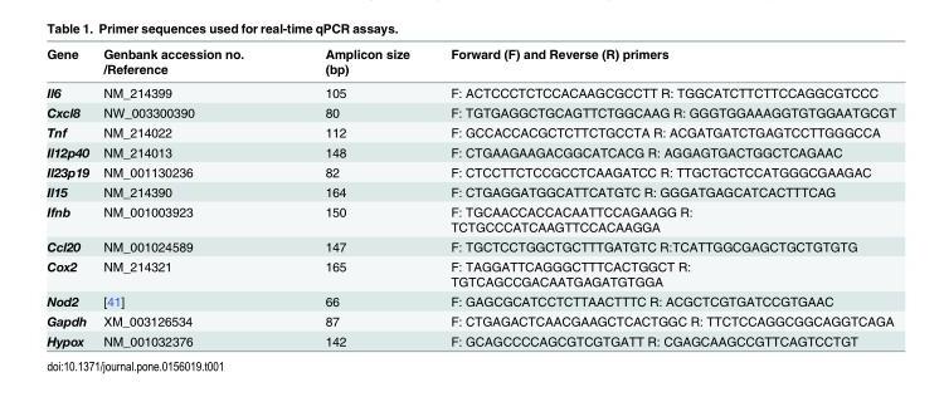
<table><thead><tr><td>Gene</td><td>Genbank accession no. /Reference</td><td>Amplicon size (bp)</td><td>Forward (F) and Reverse (R) primers</td></tr></thead><tbody><tr><td>Il6</td><td>NM_214399</td><td>105</td><td>F: ACTCCCTCTCCACAAGCGCCTT R: TGGCATCTTCTTCCAGGCGTCCC</td></tr><tr><td>Cxcl8</td><td>NW_003300390</td><td>80</td><td>F: TGTGAGGCTGCAGTTCTGGCAAG R: GGGTGGAAAGGTGTGGAATGCGT</td></tr><tr><td>Tnf</td><td>NM_214022</td><td>112</td><td>F: GCCACCACGCTCTTCTGCCTA R: ACGATGATCTGAGTCCTTGGGCCA</td></tr><tr><td>Il12p40</td><td>NM_214013</td><td>148</td><td>F: CTGAAGAAGACGGCATCACG R: AGGAGTGACTGGCTCAGAAC</td></tr><tr><td>Il23p19</td><td>NM_001130236</td><td>82</td><td>F: CTCCTTCTCCGCCTCAAGATCC R: TTGCTGCTCCATGGGCGAAGAC</td></tr><tr><td>Il15</td><td>NM_214390</td><td>164</td><td>F: CTGAGGATGGCATTCATGTC R: GGGATGAGCATCACTTTCAG</td></tr><tr><td>Ifnb</td><td>NM_001003923</td><td>150</td><td>F: TGCAACCACCACAATTCCAGAAGG R: TCTGCCCATCAAGTTCCACAAGGA</td></tr><tr><td>Ccl20</td><td>NM_001024589</td><td>147</td><td>F: TGCTCCTGGCTGCTTTGATGTC R:TCATTGGCGAGCTGCTGTGTG</td></tr><tr><td>Cox2</td><td>NM_214321</td><td>165</td><td>F: TAGGATTCAGGGCTTTCACTGGCT R: TGTCAGCCGACAATGAGATGTGGA</td></tr><tr><td>Nod2</td><td>[41]</td><td>66</td><td>F: GAGCGCATCCTCTTAACTTTC R: ACGCTCGTGATCCGTGAAC</td></tr><tr><td>Gapdh</td><td>XM_003126534</td><td>87</td><td>F: CTGAGACTCAACGAAGCTCACTGGC R: TTCTCCAGGCGGCAGGTCAGA</td></tr><tr><td>Hypox</td><td>NM_001032376</td><td>142</td><td>F: GCAGCCCCAGCGTCGTGATT R: CGAGCAAGCCGTTCAGTCCTGT</td></tr></tbody></table>